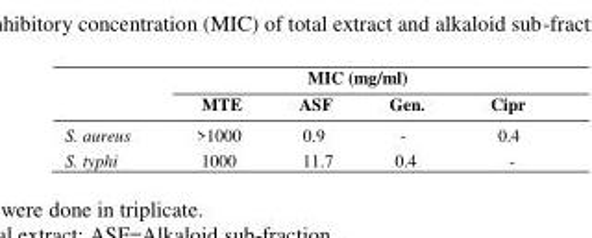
<table><thead><tr><td rowspan="2"></td><td colspan="4">MIC (mg/ml)</td></tr><tr><td>MTE</td><td>ASF</td><td>Gen.</td><td>Cipr</td></tr></thead><tbody><tr><td>S. aureus</td><td>&gt;1000</td><td>0.9</td><td>-</td><td>0.4</td></tr><tr><td>S. typhi</td><td>1000</td><td>11.7</td><td>0.4</td><td>-</td></tr></tbody></table>